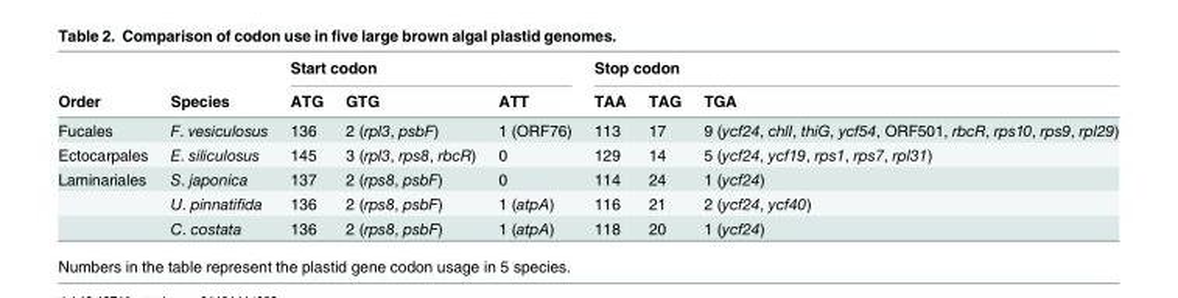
<table><thead><tr><td rowspan="2">Order</td><td rowspan="2">Species</td><td colspan="3">Start codon</td><td colspan="3">Stop codon</td></tr><tr><td>ATG</td><td>GTG</td><td>ATT</td><td>TAA</td><td>TAG</td><td>TGA</td></tr></thead><tbody><tr><td>Fucales</td><td>F. vesiculosus</td><td>136</td><td>2 (rpl3, psbF)</td><td>1 (ORF76)</td><td>113</td><td>17</td><td>9 (ycf24, chlI, thiG, ycf54, ORF501, rbcR, rps10, rps9, rpl29)</td></tr><tr><td>Ectocarpales</td><td>E. siliculosus</td><td>145</td><td>3 (rpl3, rps8, rbcR)</td><td>0</td><td>129</td><td>14</td><td>5 (ycf24, ycf19, rps1, rps7, rpl31)</td></tr><tr><td rowspan="3">Laminariales</td><td>S. japonica</td><td>137</td><td>2 (rps8, psbF)</td><td>0</td><td>114</td><td>24</td><td>1 (ycf24)</td></tr><tr><td>U. pinnatifida</td><td>136</td><td>2 (rps8, psbF)</td><td>1 (atpA)</td><td>116</td><td>21</td><td>2 (ycf24, ycf40)</td></tr><tr><td>C. costata</td><td>136</td><td>2 (rps8, psbF)</td><td>1 (atpA)</td><td>118</td><td>20</td><td>1 (ycf24)</td></tr></tbody></table>